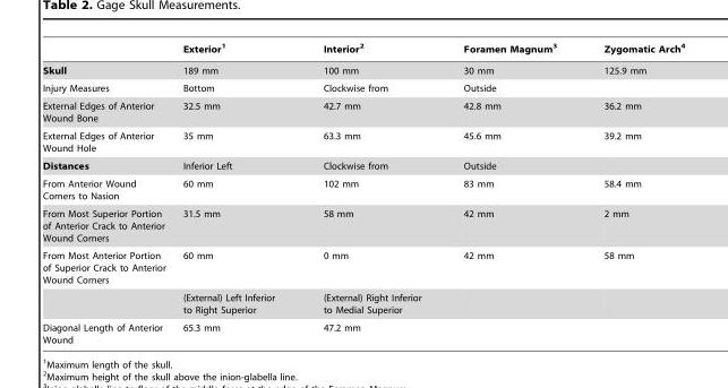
<table><thead><tr><td></td><td>Exterior<sup>1</sup></td><td>Interior<sup>2</sup></td><td>Foramen Magnum<sup>3</sup></td><td>Zygomatic Arch<sup>4</sup></td></tr></thead><tbody><tr><td>Skull</td><td>189 mm</td><td>100 mm</td><td>30 mm</td><td>125.9 mm</td></tr><tr><td>Injury Measures</td><td>Bottom</td><td>Clockwise from</td><td>Outside</td><td></td></tr><tr><td>External Edges of Anterior Wound Bone</td><td>32.5 mm</td><td>42.7 mm</td><td>42.8 mm</td><td>36.2 mm</td></tr><tr><td>External Edges of Anterior Wound Hole</td><td>35 mm</td><td>63.3 mm</td><td>45.6 mm</td><td>39.2 mm</td></tr><tr><td>Distances</td><td>Inferior Left</td><td>Clockwise from</td><td>Outside</td><td></td></tr><tr><td>From Anterior Wound Corners to Nasion</td><td>60 mm</td><td>102 mm</td><td>83 mm</td><td>58.4 mm</td></tr><tr><td>From Most Superior Portion of Anterior Crack to Anterior Wound Corners</td><td>31.5 mm</td><td>58 mm</td><td>42 mm</td><td>2 mm</td></tr><tr><td rowspan="2">From Most Anterior Portion of Superior Crack to Anterior Wound Corners</td><td>60 mm</td><td>0 mm</td><td>42 mm</td><td>58 mm</td></tr><tr><td>(External) Left Inferior to Right Superior</td><td>(External) Right Inferior to Medial Superior</td><td></td><td></td></tr><tr><td>Diagonal Length of Anterior Wound</td><td>65.3 mm</td><td>47.2 mm</td><td></td><td></td></tr></tbody></table>